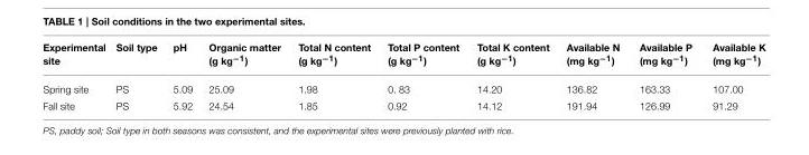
<table><thead><tr><td>Experimental site</td><td>Soil type</td><td>pH</td><td>Organic matter (g kg<sup>−1</sup>)</td><td>Total N content (g kg<sup>−1</sup>)</td><td>Total P content (g kg<sup>−1</sup>)</td><td>Total K content (g kg<sup>−1</sup>)</td><td>Available N (mg kg<sup>−1</sup>)</td><td>Available P (mg kg<sup>−1</sup>)</td><td>Available K (mg kg<sup>−1</sup>)</td></tr></thead><tbody><tr><td>Spring site</td><td>PS</td><td>5.09</td><td>25.09</td><td>1.98</td><td>0. 83</td><td>14.20</td><td>136.82</td><td>163.33</td><td>107.00</td></tr><tr><td>Fall site</td><td>PS</td><td>5.92</td><td>24.54</td><td>1.85</td><td>0.92</td><td>14.12</td><td>191.94</td><td>126.99</td><td>91.29</td></tr></tbody></table>